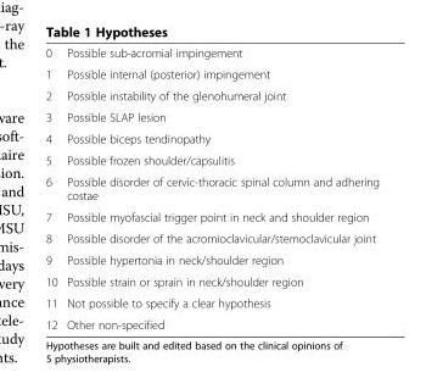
<table><tbody><tr><td>0</td><td>Possible sub-acromial impingement</td></tr><tr><td>1</td><td>Possible internal (posterior) impingement</td></tr><tr><td>2</td><td>Possible instability of the glenohumeral joint</td></tr><tr><td>3</td><td>Possible SLAP lesion</td></tr><tr><td>4</td><td>Possible biceps tendinopathy</td></tr><tr><td>5</td><td>Possible frozen shoulder/capsulitis</td></tr><tr><td>6</td><td>Possible disorder of cervic-thoracic spinal column and adhering costae</td></tr><tr><td>7</td><td>Possible myofascial trigger point in neck and shoulder region</td></tr><tr><td>8</td><td>Possible disorder of the acromioclavicular/sternoclavicular joint</td></tr><tr><td>9</td><td>Possible hypertonia in neck/shoulder region</td></tr><tr><td>10</td><td>Possible strain or sprain in neck/shoulder region</td></tr><tr><td>11</td><td>Not possible to specify a clear hypothesis</td></tr><tr><td>12</td><td>Other non-specified</td></tr></tbody></table>